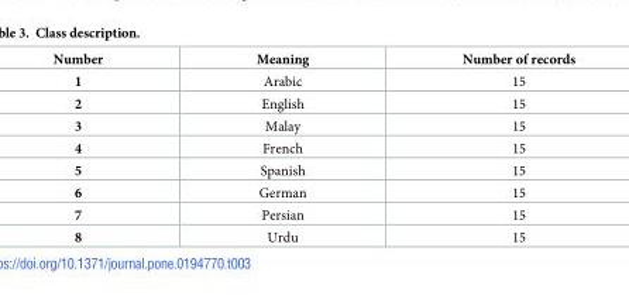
<table><thead><tr><td>Number</td><td>Meaning</td><td>Number of records</td></tr></thead><tbody><tr><td>1</td><td>Arabic</td><td>15</td></tr><tr><td>2</td><td>English</td><td>15</td></tr><tr><td>3</td><td>Malay</td><td>15</td></tr><tr><td>4</td><td>French</td><td>15</td></tr><tr><td>5</td><td>Spanish</td><td>15</td></tr><tr><td>6</td><td>German</td><td>15</td></tr><tr><td>7</td><td>Persian</td><td>15</td></tr><tr><td>8</td><td>Urdu</td><td>15</td></tr></tbody></table>